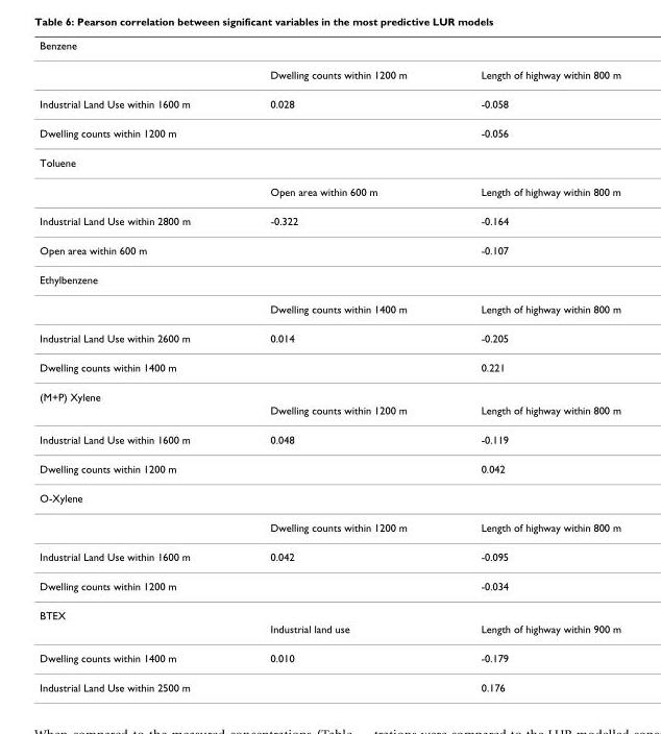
<table><thead><tr><td colspan="3">Benzene</td></tr><tr><td></td><td>Dwelling counts within 1200 m</td><td>Length of highway within 800 m</td></tr></thead><tbody><tr><td>Industrial Land Use within 1600 m</td><td>0.028</td><td>-0.058</td></tr><tr><td>Dwelling counts within 1200 m</td><td></td><td>-0.056</td></tr><tr><td colspan="3">Toluene</td></tr><tr><td></td><td>Open area within 600 m</td><td>Length of highway within 800 m</td></tr><tr><td>Industrial Land Use within 2800 m</td><td>-0.322</td><td>-0.164</td></tr><tr><td>Open area within 600 m</td><td></td><td>-0.107</td></tr><tr><td colspan="3">Ethylbenzene</td></tr><tr><td></td><td>Dwelling counts within 1400 m</td><td>Length of highway within 800 m</td></tr><tr><td>Industrial Land Use within 2600 m</td><td>0.014</td><td>-0.205</td></tr><tr><td>Dwelling counts within 1400 m</td><td></td><td>0.221</td></tr><tr><td colspan="3">(M+P) Xylene</td></tr><tr><td></td><td>Dwelling counts within 1200 m</td><td>Length of highway within 800 m</td></tr><tr><td>Industrial Land Use within 1600 m</td><td>0.048</td><td>-0.119</td></tr><tr><td>Dwelling counts within 1200 m</td><td></td><td>0.042</td></tr><tr><td colspan="3">O-Xylene</td></tr><tr><td></td><td>Dwelling counts within 1200 m</td><td>Length of highway within 800 m</td></tr><tr><td>Industrial Land Use within 1600 m</td><td>0.042</td><td>-0.095</td></tr><tr><td>Dwelling counts within 1200 m</td><td></td><td>-0.034</td></tr><tr><td colspan="3">BTEX</td></tr><tr><td></td><td>Industrial land use</td><td>Length of highway within 900 m</td></tr><tr><td>Dwelling counts within 1400 m</td><td>0.010</td><td>-0.179</td></tr><tr><td>Industrial Land Use within 2500 m</td><td></td><td>0.176</td></tr></tbody></table>